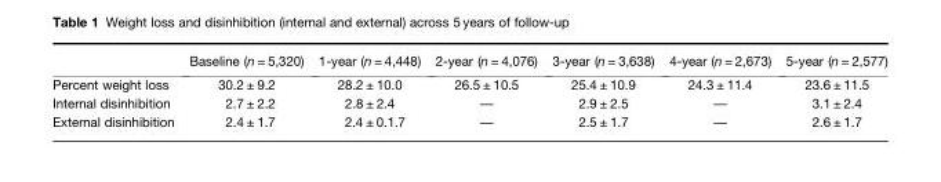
<table><thead><tr><td></td><td>Baseline (n = 5,320)</td><td>1-year (n = 4,448)</td><td>2-year (n = 4,076)</td><td>3-year (n = 3,638)</td><td>4-year (n = 2,673)</td><td>5-year (n = 2,577)</td></tr></thead><tbody><tr><td>Percent weight loss</td><td>30.2 ± 9.2</td><td>28.2 ± 10.0</td><td>26.5 ± 10.5</td><td>25.4 ± 10.9</td><td>24.3 ± 11.4</td><td>23.6 ± 11.5</td></tr><tr><td>Internal disinhibition</td><td>2.7 ± 2.2</td><td>2.8 ± 2.4</td><td>—</td><td>2.9 ± 2.5</td><td>—</td><td>3.1 ± 2.4</td></tr><tr><td>External disinhibition</td><td>2.4 ± 1.7</td><td>2.4 ± 0.1.7</td><td>—</td><td>2.5 ± 1.7</td><td>—</td><td>2.6 ± 1.7</td></tr></tbody></table>